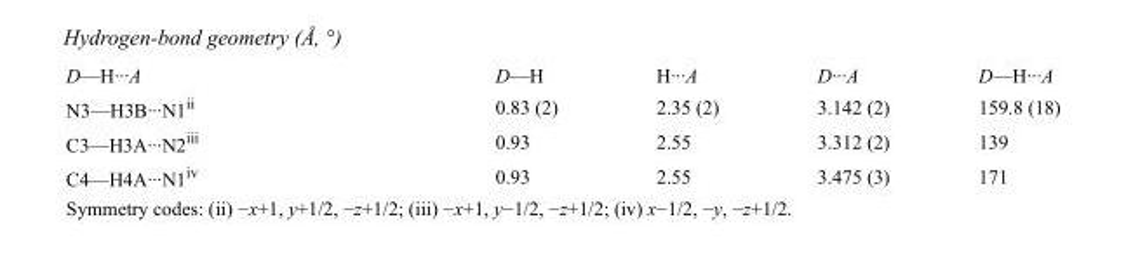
<table><tbody><tr><td>D—H···A</td><td>D—H</td><td>H···A</td><td>D···A</td><td>D—H···A</td></tr><tr><td>N3—H3B···N1<sup>ii</sup></td><td>0.83 (2)</td><td>2.35 (2)</td><td>3.142 (2)</td><td>159.8 (18)</td></tr><tr><td>C3—H3A···N2<sup>iii</sup></td><td>0.93</td><td>2.55</td><td>3.312 (2)</td><td>139</td></tr><tr><td>C4—H4A···N1<sup>iv</sup></td><td>0.93</td><td>2.55</td><td>3.475 (3)</td><td>171</td></tr></tbody></table>